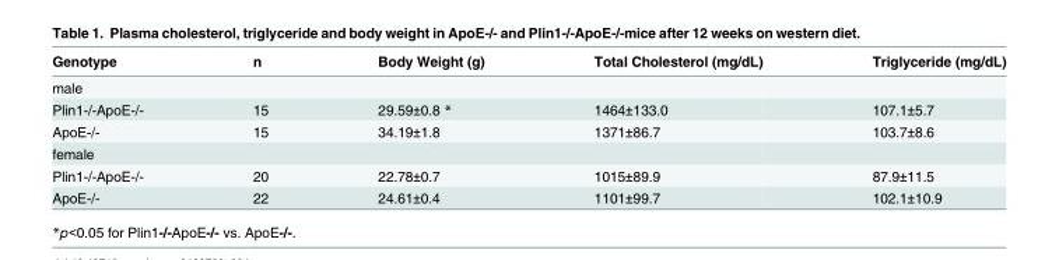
<table><thead><tr><td>Genotype</td><td>n</td><td>Body Weight (g)</td><td>Total Cholesterol (mg/dL)</td><td>Triglyceride (mg/dL)</td></tr></thead><tbody><tr><td colspan="5">male</td></tr><tr><td>Plin1-/-ApoE-/-</td><td>15</td><td>29.59±0.8 *</td><td>1464±133.0</td><td>107.1±5.7</td></tr><tr><td>ApoE-/-</td><td>15</td><td>34.19±1.8</td><td>1371±86.7</td><td>103.7±8.6</td></tr><tr><td colspan="5">female</td></tr><tr><td>Plin1-/-ApoE-/-</td><td>20</td><td>22.78±0.7</td><td>1015±89.9</td><td>87.9±11.5</td></tr><tr><td>ApoE-/-</td><td>22</td><td>24.61±0.4</td><td>1101±99.7</td><td>102.1±10.9</td></tr></tbody></table>